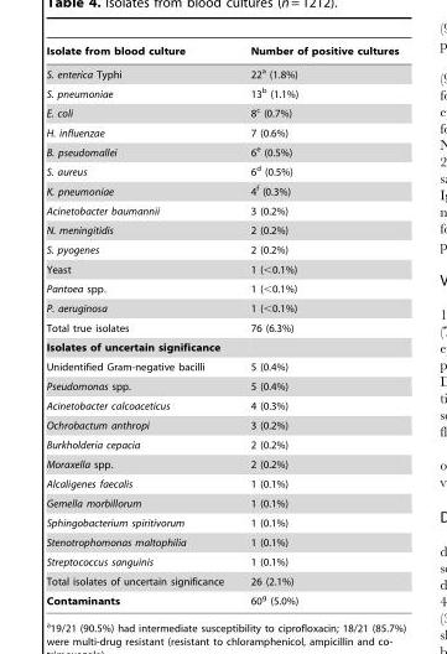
<table><thead><tr><td>Isolate from blood culture</td><td>Number of positive cultures</td></tr></thead><tbody><tr><td>S. enterica Typhi</td><td>22<sup>a</sup> (1.8%)</td></tr><tr><td>S. pneumoniae</td><td>13<sup>b</sup> (1.1%)</td></tr><tr><td>E. coli</td><td>8<sup>c</sup> (0.7%)</td></tr><tr><td>H. influenzae</td><td>7 (0.6%)</td></tr><tr><td>B. pseudomallei</td><td>6<sup>e</sup> (0.5%)</td></tr><tr><td>S. aureus</td><td>6<sup>d</sup> (0.5%)</td></tr><tr><td>K. pneumoniae</td><td>4<sup>f</sup> (0.3%)</td></tr><tr><td>Acinetobacter baumannii</td><td>3 (0.2%)</td></tr><tr><td>N. meningitidis</td><td>2 (0.2%)</td></tr><tr><td>S. pyogenes</td><td>2 (0.2%)</td></tr><tr><td>Yeast</td><td>1 (&lt;0.1%)</td></tr><tr><td>Pantoea spp.</td><td>1 (&lt;0.1%)</td></tr><tr><td>P. aeruginosa</td><td>1 (&lt;0.1%)</td></tr><tr><td>Total true isolates</td><td>76 (6.3%)</td></tr><tr><td colspan="2">Isolates of uncertain significance</td></tr><tr><td>Unidentified Gram-negative bacilli</td><td>5 (0.4%)</td></tr><tr><td>Pseudomonas spp.</td><td>5 (0.4%)</td></tr><tr><td>Acinetobacter calcoaceticus</td><td>4 (0.3%)</td></tr><tr><td>Ochrobactum anthropi</td><td>3 (0.2%)</td></tr><tr><td>Burkholderia cepacia</td><td>2 (0.2%)</td></tr><tr><td>Moraxella spp.</td><td>2 (0.2%)</td></tr><tr><td>Alcaligenes faecalis</td><td>1 (0.1%)</td></tr><tr><td>Gemella morbillorum</td><td>1 (0.1%)</td></tr><tr><td>Sphingobacterium spiritivorum</td><td>1 (0.1%)</td></tr><tr><td>Stenotrophomonas maltophilia</td><td>1 (0.1%)</td></tr><tr><td>Streptococcus sanguinis</td><td>1 (0.1%)</td></tr><tr><td>Total isolates of uncertain significance</td><td>26 (2.1%)</td></tr><tr><td>Contaminants</td><td>60<sup>g</sup> (5.0%)</td></tr></tbody></table>